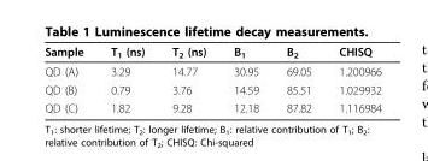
<table><thead><tr><td>Sample</td><td>T<sub>1</sub> (ns)</td><td>T<sub>2</sub> (ns)</td><td>B<sub>1</sub></td><td>B<sub>2</sub></td><td>CHISQ</td></tr></thead><tbody><tr><td>QD (A)</td><td>3.29</td><td>14.77</td><td>30.95</td><td>69.05</td><td>1.200966</td></tr><tr><td>QD (B)</td><td>0.79</td><td>3.76</td><td>14.59</td><td>85.51</td><td>1.029932</td></tr><tr><td>QD (C)</td><td>1.82</td><td>9.28</td><td>12.18</td><td>87.82</td><td>1.116984</td></tr></tbody></table>